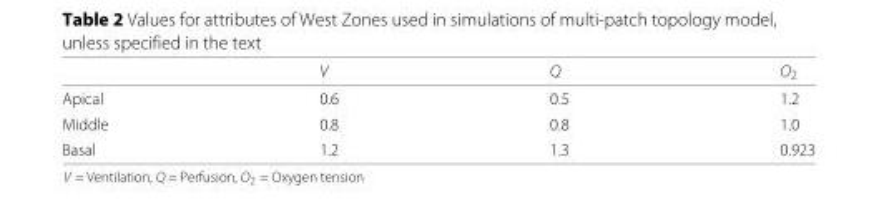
<table><thead><tr><td></td><td>V</td><td>Q</td><td>O<sub>2</sub></td></tr></thead><tbody><tr><td>Apical</td><td>0.6</td><td>0.5</td><td>1.2</td></tr><tr><td>Middle</td><td>0.8</td><td>0.8</td><td>1.0</td></tr><tr><td>Basal</td><td>1.2</td><td>1.3</td><td>0.923</td></tr></tbody></table>